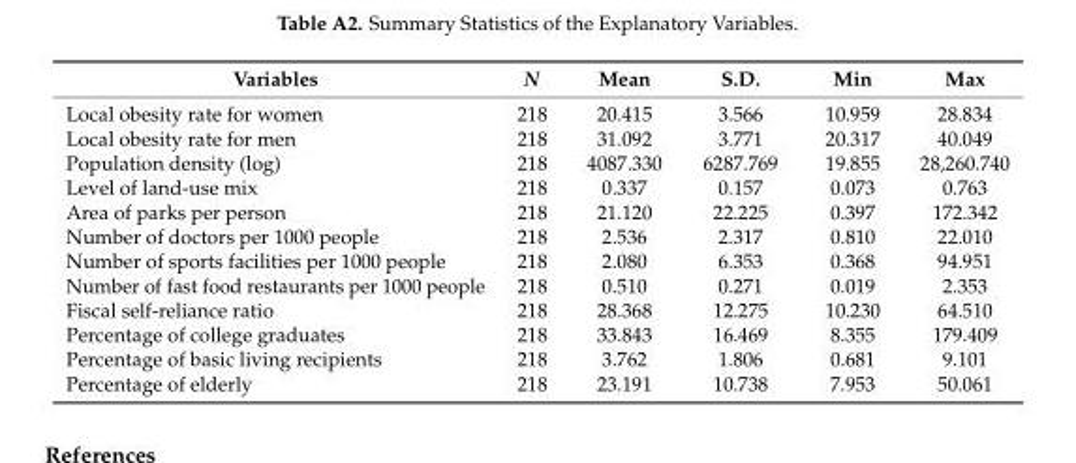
<table><thead><tr><td>Variables</td><td>N</td><td>Mean</td><td>S.D.</td><td>Min</td><td>Max</td></tr></thead><tbody><tr><td>Local obesity rate for women</td><td>218</td><td>20.415</td><td>3.566</td><td>10.959</td><td>28.834</td></tr><tr><td>Local obesity rate for men</td><td>218</td><td>31.092</td><td>3.771</td><td>20.317</td><td>40.049</td></tr><tr><td>Population density (log)</td><td>218</td><td>4087.330</td><td>6287.769</td><td>19.855</td><td>28,260.740</td></tr><tr><td>Level of land-use mix</td><td>218</td><td>0.337</td><td>0.157</td><td>0.073</td><td>0.763</td></tr><tr><td>Area of parks per person</td><td>218</td><td>21.120</td><td>22.225</td><td>0.397</td><td>172.342</td></tr><tr><td>Number of doctors per 1000 people</td><td>218</td><td>2.536</td><td>2.317</td><td>0.810</td><td>22.010</td></tr><tr><td>Number of sports facilities per 1000 people</td><td>218</td><td>2.080</td><td>6.353</td><td>0.368</td><td>94.951</td></tr><tr><td>Number of fast food restaurants per 1000 people</td><td>218</td><td>0.510</td><td>0.271</td><td>0.019</td><td>2.353</td></tr><tr><td>Fiscal self-reliance ratio</td><td>218</td><td>28.368</td><td>12.275</td><td>10.230</td><td>64.510</td></tr><tr><td>Percentage of college graduates</td><td>218</td><td>33.843</td><td>16.469</td><td>8.355</td><td>179.409</td></tr><tr><td>Percentage of basic living recipients</td><td>218</td><td>3.762</td><td>1.806</td><td>0.681</td><td>9.101</td></tr><tr><td>Percentage of elderly</td><td>218</td><td>23.191</td><td>10.738</td><td>7.953</td><td>50.061</td></tr></tbody></table>